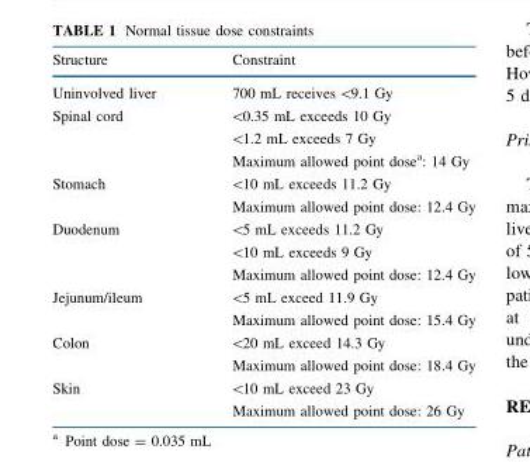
<table><thead><tr><td>Structure</td><td>Constraint</td></tr></thead><tbody><tr><td>Uninvolved liver</td><td>700 mL receives &lt;9.1 Gy</td></tr><tr><td rowspan="3">Spinal cord</td><td>&lt;0.35 mL exceeds 10 Gy</td></tr><tr><td>&lt;1.2 mL exceeds 7 Gy</td></tr><tr><td>Maximum allowed point dose<sup>a</sup>: 14 Gy</td></tr><tr><td rowspan="2">Stomach</td><td>&lt;10 mL exceeds 11.2 Gy</td></tr><tr><td>Maximum allowed point dose: 12.4 Gy</td></tr><tr><td rowspan="3">Duodenum</td><td>&lt;5 mL exceeds 11.2 Gy</td></tr><tr><td>&lt;10 mL exceeds 9 Gy</td></tr><tr><td>Maximum allowed point dose: 12.4 Gy</td></tr><tr><td rowspan="2">Jejunum/ileum</td><td>&lt;5 mL exceed 11.9 Gy</td></tr><tr><td>Maximum allowed point dose: 15.4 Gy</td></tr><tr><td rowspan="2">Colon</td><td>&lt;20 mL exceed 14.3 Gy</td></tr><tr><td>Maximum allowed point dose: 18.4 Gy</td></tr><tr><td rowspan="2">Skin</td><td>&lt;10 mL exceed 23 Gy</td></tr><tr><td>Maximum allowed point dose: 26 Gy</td></tr></tbody></table>